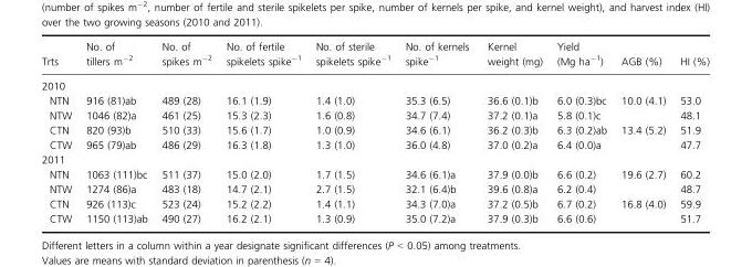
<table><thead><tr><td>Trts</td><td>No. of tillers m<sup>−2</sup></td><td>No. of spikes m<sup>−2</sup></td><td>No. of fertile spikelets spike<sup>−1</sup></td><td>No. of sterile spikelets spike<sup>−1</sup></td><td>No. of kernels spike<sup>−1</sup></td><td>Kernel weight (mg)</td><td>Yield (Mg ha<sup>−1</sup>)</td><td>AGB (%)</td><td>HI (%)</td></tr></thead><tbody><tr><td colspan="10">2010</td></tr><tr><td>NTN</td><td>916 (81)ab</td><td>489 (28)</td><td>16.1 (1.9)</td><td>1.4 (1.0)</td><td>35.3 (6.5)</td><td>36.6 (0.1)b</td><td>6.0 (0.3)bc</td><td rowspan="2">10.0 (4.1)</td><td>53.0</td></tr><tr><td>NTW</td><td>1046 (82)a</td><td>461 (25)</td><td>15.3 (2.3)</td><td>1.6 (0.8)</td><td>34.7 (7.4)</td><td>37.2 (0.1)a</td><td>5.8 (0.1)c</td><td>48.1</td></tr><tr><td>CTN</td><td>820 (93)b</td><td>510 (33)</td><td>15.6 (1.7)</td><td>1.0 (0.9)</td><td>34.6 (6.1)</td><td>36.2 (0.3)b</td><td>6.3 (0.2)ab</td><td rowspan="2">13.4 (5.2)</td><td>51.9</td></tr><tr><td>CTW</td><td>965 (79)ab</td><td>486 (29)</td><td>16.3 (1.8)</td><td>1.3 (1.0)</td><td>36.0 (4.8)</td><td>37.0 (0.2)a</td><td>6.4 (0.0)a</td><td>47.7</td></tr><tr><td colspan="10">2011</td></tr><tr><td>NTN</td><td>1063 (111)bc</td><td>511 (37)</td><td>15.0 (2.0)</td><td>1.7 (1.5)</td><td>34.6 (6.1)a</td><td>37.9 (0.0)b</td><td>6.6 (0.2)</td><td rowspan="2">19.6 (2.7)</td><td>60.2</td></tr><tr><td>NTW</td><td>1274 (86)a</td><td>483 (18)</td><td>14.7 (2.1)</td><td>2.7 (1.5)</td><td>32.1 (6.4)b</td><td>39.6 (0.8)a</td><td>6.2 (0.4)</td><td>48.7</td></tr><tr><td>CTN</td><td>926 (113)c</td><td>523 (24)</td><td>15.2 (2.2)</td><td>1.4 (1.1)</td><td>34.3 (7.0)a</td><td>37.2 (0.5)b</td><td>6.7 (0.2)</td><td rowspan="2">16.8 (4.0)</td><td>59.9</td></tr><tr><td>CTW</td><td>1150 (113)ab</td><td>490 (27)</td><td>16.2 (2.1)</td><td>1.3 (0.9)</td><td>35.0 (7.2)a</td><td>37.9 (0.3)b</td><td>6.6 (0.6)</td><td>51.7</td></tr></tbody></table>